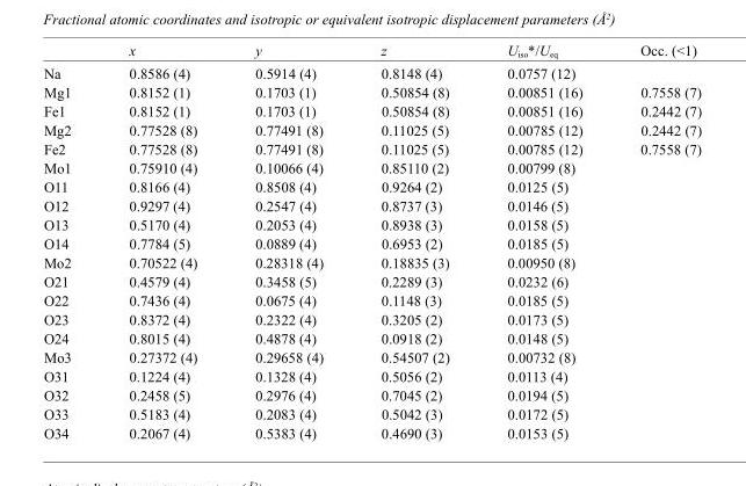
<table><thead><tr><td></td><td>x</td><td>y</td><td>z</td><td>U<sub>iso</sub>*/U<sub>eq</sub></td><td>Occ. (&lt;1)</td></tr></thead><tbody><tr><td>Na</td><td>0.8586 (4)</td><td>0.5914 (4)</td><td>0.8148 (4)</td><td>0.0757 (12)</td><td></td></tr><tr><td>Mg1</td><td>0.8152 (1)</td><td>0.1703 (1)</td><td>0.50854 (8)</td><td>0.00851 (16)</td><td>0.7558 (7)</td></tr><tr><td>Fe1</td><td>0.8152 (1)</td><td>0.1703 (1)</td><td>0.50854 (8)</td><td>0.00851 (16)</td><td>0.2442 (7)</td></tr><tr><td>Mg2</td><td>0.77528 (8)</td><td>0.77491 (8)</td><td>0.11025 (5)</td><td>0.00785 (12)</td><td>0.2442 (7)</td></tr><tr><td>Fe2</td><td>0.77528 (8)</td><td>0.77491 (8)</td><td>0.11025 (5)</td><td>0.00785 (12)</td><td>0.7558 (7)</td></tr><tr><td>Mo1</td><td>0.75910 (4)</td><td>0.10066 (4)</td><td>0.85110 (2)</td><td>0.00799 (8)</td><td></td></tr><tr><td>O11</td><td>0.8166 (4)</td><td>0.8508 (4)</td><td>0.9264 (2)</td><td>0.0125 (5)</td><td></td></tr><tr><td>O12</td><td>0.9297 (4)</td><td>0.2547 (4)</td><td>0.8737 (3)</td><td>0.0146 (5)</td><td></td></tr><tr><td>O13</td><td>0.5170 (4)</td><td>0.2053 (4)</td><td>0.8938 (3)</td><td>0.0158 (5)</td><td></td></tr><tr><td>O14</td><td>0.7784 (5)</td><td>0.0889 (4)</td><td>0.6953 (2)</td><td>0.0185 (5)</td><td></td></tr><tr><td>Mo2</td><td>0.70522 (4)</td><td>0.28318 (4)</td><td>0.18835 (3)</td><td>0.00950 (8)</td><td></td></tr><tr><td>O21</td><td>0.4579 (4)</td><td>0.3458 (5)</td><td>0.2289 (3)</td><td>0.0232 (6)</td><td></td></tr><tr><td>O22</td><td>0.7436 (4)</td><td>0.0675 (4)</td><td>0.1148 (3)</td><td>0.0185 (5)</td><td></td></tr><tr><td>O23</td><td>0.8372 (4)</td><td>0.2322 (4)</td><td>0.3205 (2)</td><td>0.0173 (5)</td><td></td></tr><tr><td>O24</td><td>0.8015 (4)</td><td>0.4878 (4)</td><td>0.0918 (2)</td><td>0.0148 (5)</td><td></td></tr><tr><td>Mo3</td><td>0.27372 (4)</td><td>0.29658 (4)</td><td>0.54507 (2)</td><td>0.00732 (8)</td><td></td></tr><tr><td>O31</td><td>0.1224 (4)</td><td>0.1328 (4)</td><td>0.5056 (2)</td><td>0.0113 (4)</td><td></td></tr><tr><td>O32</td><td>0.2458 (5)</td><td>0.2976 (4)</td><td>0.7045 (2)</td><td>0.0194 (5)</td><td></td></tr><tr><td>O33</td><td>0.5183 (4)</td><td>0.2083 (4)</td><td>0.5042 (3)</td><td>0.0172 (5)</td><td></td></tr><tr><td>O34</td><td>0.2067 (4)</td><td>0.5383 (4)</td><td>0.4690 (3)</td><td>0.0153 (5)</td><td></td></tr></tbody></table>